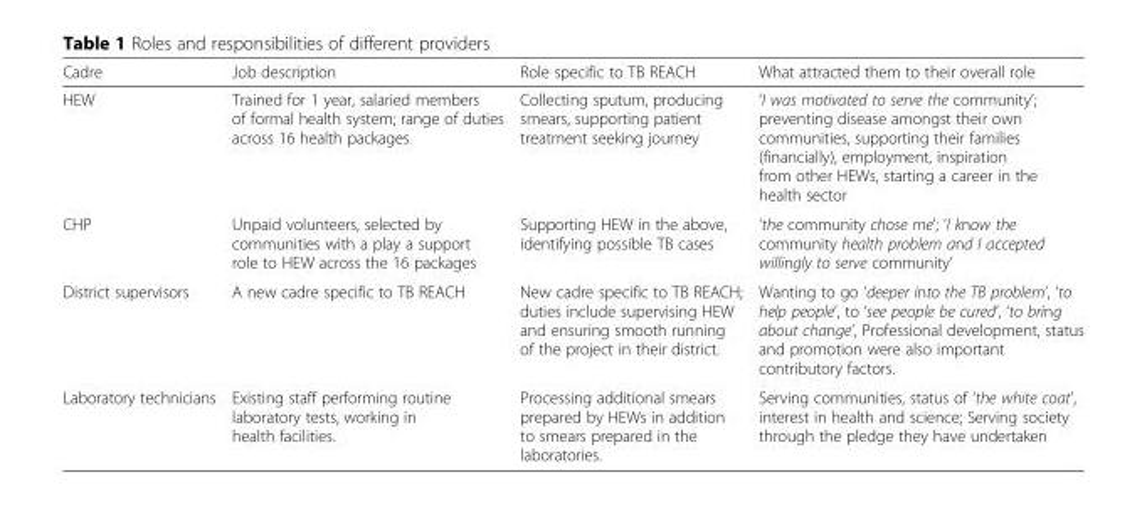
<table><thead><tr><td>Cadre</td><td>Job description</td><td>Role specific to TB REACH</td><td>What attracted them to their overall role</td></tr></thead><tbody><tr><td>HEW</td><td>Trained for 1 year, salaried members of formal health system; range of duties across 16 health packages</td><td>Collecting sputum, producing smears, supporting patient treatment seeking journey</td><td>‘I was motivated to serve the community’; preventing disease amongst their own communities, supporting their families (financially), employment, inspiration from other HEWs, starting a career in the health sector</td></tr><tr><td>CHP</td><td>Unpaid volunteers, selected by communities with a play a support role to HEW across the 16 packages</td><td>Supporting HEW in the above, identifying possible TB cases</td><td>‘the community chose me’; ‘I know the community health problem and I accepted willingly to serve community’</td></tr><tr><td>District supervisors</td><td>A new cadre specific to TB REACH</td><td>New cadre specific to TB REACH; duties include supervising HEW and ensuring smooth running of the project in their district.</td><td>Wanting to go ‘deeper into the TB problem’, ‘to help people’, to ‘see people be cured’, ‘to bring about change’, Professional development, status and promotion were also important contributory factors.</td></tr><tr><td>Laboratory technicians</td><td>Existing staff performing routine laboratory tests, working in health facilities.</td><td>Processing additional smears prepared by HEWs in addition to smears prepared in the laboratories.</td><td>Serving communities, status of ‘the white coat’, interest in health and science; Serving society through the pledge they have undertaken</td></tr></tbody></table>